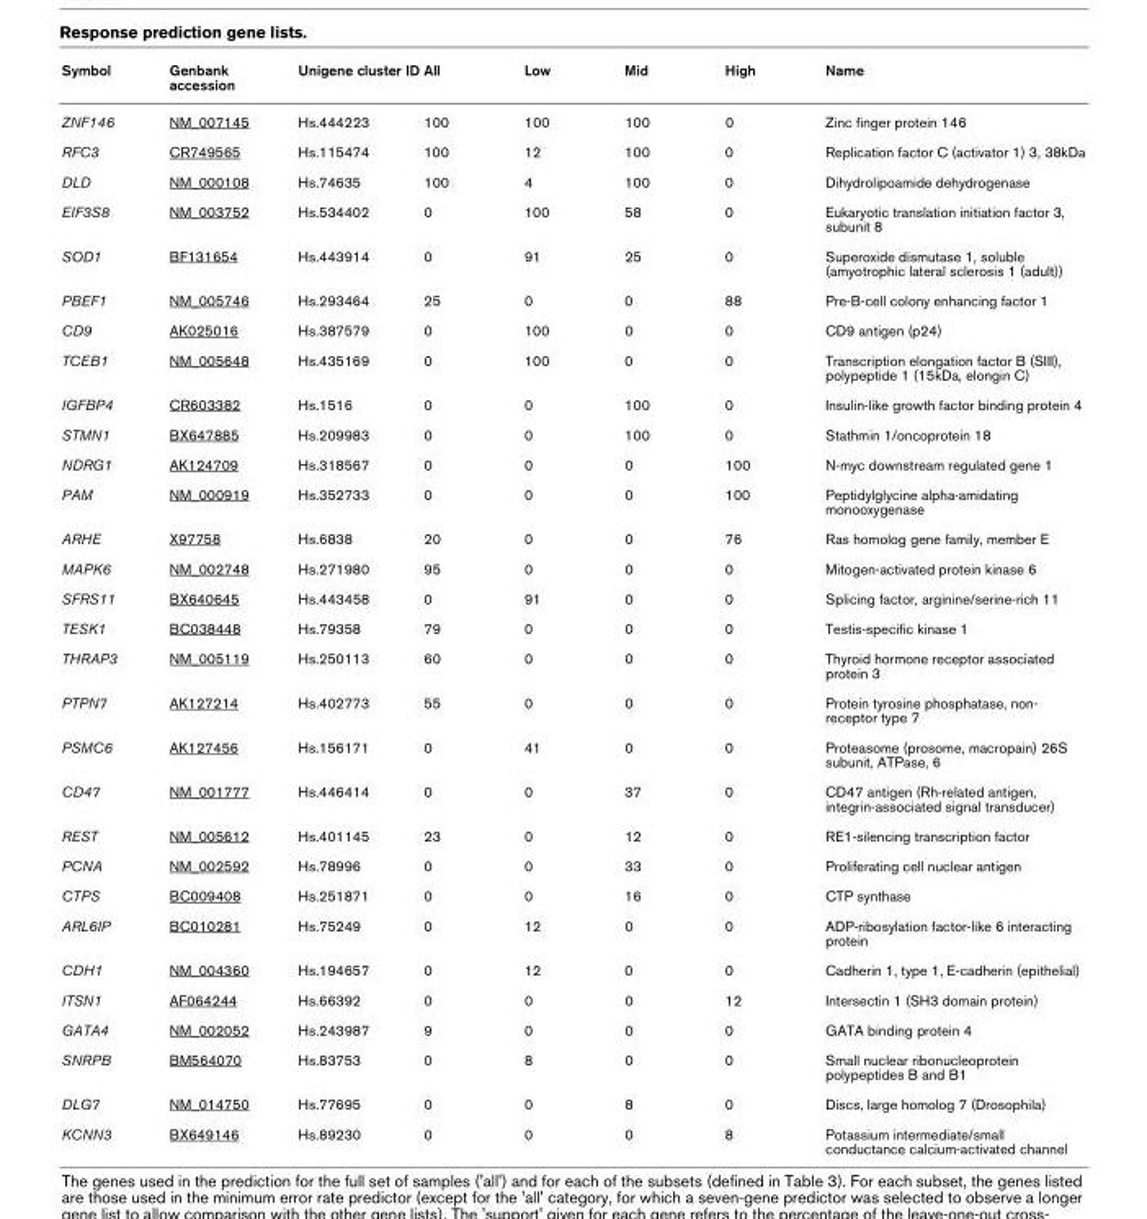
<table><thead><tr><td>Symbol</td><td>Genbank accession</td><td>Unigene cluster ID</td><td>All</td><td>Low</td><td>Mid</td><td>High</td><td>Name</td></tr></thead><tbody><tr><td>ZNF146</td><td>NM_007145</td><td>Hs.444223</td><td>100</td><td>100</td><td>100</td><td>0</td><td>Zinc finger protein 146</td></tr><tr><td>RFC3</td><td>CR749565</td><td>Hs.115474</td><td>100</td><td>12</td><td>100</td><td>0</td><td>Replication factor C (activator 1) 3, 38kDa</td></tr><tr><td>DLD</td><td>NM_000108</td><td>Hs.74635</td><td>100</td><td>4</td><td>100</td><td>0</td><td>Dihydrolipoamide dehydrogenase</td></tr><tr><td>EIF3S8</td><td>NM_003752</td><td>Hs.534402</td><td>0</td><td>100</td><td>58</td><td>0</td><td>Eukaryotic translation initiation factor 3, subunit 8</td></tr><tr><td>SOD1</td><td>BF131654</td><td>Hs.443914</td><td>0</td><td>91</td><td>25</td><td>0</td><td>Superoxide dismutase 1, soluble (amyotrophic lateral sclerosis 1 (adult))</td></tr><tr><td>PBEF1</td><td>NM_005746</td><td>Hs.293464</td><td>25</td><td>0</td><td>0</td><td>88</td><td>Pre-B-cell colony enhancing factor 1</td></tr><tr><td>CD9</td><td>AK025016</td><td>Hs.387579</td><td>0</td><td>100</td><td>0</td><td>0</td><td>CD9 antigen (p24)</td></tr><tr><td>TCEB1</td><td>NM_005648</td><td>Hs.435169</td><td>0</td><td>100</td><td>0</td><td>0</td><td>Transcription elongation factor B (SIII), polypeptide 1 (15kDa, elongin C)</td></tr><tr><td>IGFBP4</td><td>CR603382</td><td>Hs.1516</td><td>0</td><td>0</td><td>100</td><td>0</td><td>Insulin-like growth factor binding protein 4</td></tr><tr><td>STMN1</td><td>BX647885</td><td>Hs.209983</td><td>0</td><td>0</td><td>100</td><td>0</td><td>Stathmin 1/oncoprotein 18</td></tr><tr><td>NDRG1</td><td>AK124709</td><td>Hs.318567</td><td>0</td><td>0</td><td>0</td><td>100</td><td>N-myc downstream regulated gene 1</td></tr><tr><td>PAM</td><td>NM_000919</td><td>Hs.352733</td><td>0</td><td>0</td><td>0</td><td>100</td><td>Peptidylglycine alpha-amidating monooxygenase</td></tr><tr><td>ARHE</td><td>X97758</td><td>Hs.6838</td><td>20</td><td>0</td><td>0</td><td>76</td><td>Ras homolog gene family, member E</td></tr><tr><td>MAPK6</td><td>NM_002748</td><td>Hs.271980</td><td>95</td><td>0</td><td>0</td><td>0</td><td>Mitogen-activated protein kinase 6</td></tr><tr><td>SFRS11</td><td>BX640645</td><td>Hs.443458</td><td>0</td><td>91</td><td>0</td><td>0</td><td>Splicing factor, arginine/serine-rich 11</td></tr><tr><td>TESK1</td><td>BC038448</td><td>Hs.79358</td><td>79</td><td>0</td><td>0</td><td>0</td><td>Testis-specific kinase 1</td></tr><tr><td>THRAP3</td><td>NM_005119</td><td>Hs.250113</td><td>60</td><td>0</td><td>0</td><td>0</td><td>Thyroid hormone receptor associated protein 3</td></tr><tr><td>PTPN7</td><td>AK127214</td><td>Hs.402773</td><td>55</td><td>0</td><td>0</td><td>0</td><td>Protein tyrosine phosphatase, non- receptor type 7</td></tr><tr><td>PSMC6</td><td>AK127456</td><td>Hs.156171</td><td>0</td><td>41</td><td>0</td><td>0</td><td>Proteasome (prosome, macropain) 26S subunit, ATPase, 6</td></tr><tr><td>CD47</td><td>NM_001777</td><td>Hs.446414</td><td>0</td><td>0</td><td>37</td><td>0</td><td>CD47 antigen (Rh-related antigen, integrin-associated signal transducer)</td></tr><tr><td>REST</td><td>NM_005612</td><td>Hs.401145</td><td>23</td><td>0</td><td>12</td><td>0</td><td>RE1-silencing transcription factor</td></tr><tr><td>PCNA</td><td>NM_002592</td><td>Hs.78996</td><td>0</td><td>0</td><td>33</td><td>0</td><td>Proliferating cell nuclear antigen</td></tr><tr><td>CTPS</td><td>BC009408</td><td>Hs.251871</td><td>0</td><td>0</td><td>16</td><td>0</td><td>CTP synthase</td></tr><tr><td>ARL6IP</td><td>BC010281</td><td>Hs.75249</td><td>0</td><td>12</td><td>0</td><td>0</td><td>ADP-ribosylation factor-like 6 interacting protein</td></tr><tr><td>CDH1</td><td>NM_004360</td><td>Hs.194657</td><td>0</td><td>12</td><td>0</td><td>0</td><td>Cadherin 1, type 1, E-cadherin (epithelial)</td></tr><tr><td>ITSN1</td><td>AF064244</td><td>Hs.66392</td><td>0</td><td>0</td><td>0</td><td>12</td><td>Intersectin 1 (SH3 domain protein)</td></tr><tr><td>GATA4</td><td>NM_002052</td><td>Hs.243987</td><td>9</td><td>0</td><td>0</td><td>0</td><td>GATA binding protein 4</td></tr><tr><td>SNRPB</td><td>BM564070</td><td>Hs.83753</td><td>0</td><td>8</td><td>0</td><td>0</td><td>Small nuclear ribonucleoprotein polypeptides B and B1</td></tr><tr><td>DLG7</td><td>NM_014750</td><td>Hs.77695</td><td>0</td><td>0</td><td>8</td><td>0</td><td>Discs, large homolog 7 (Drosophila)</td></tr><tr><td>KCNN3</td><td>BX649146</td><td>Hs.89230</td><td>0</td><td>0</td><td>0</td><td>8</td><td>Potassium intermediate/small conductance calcium-activated channel</td></tr></tbody></table>